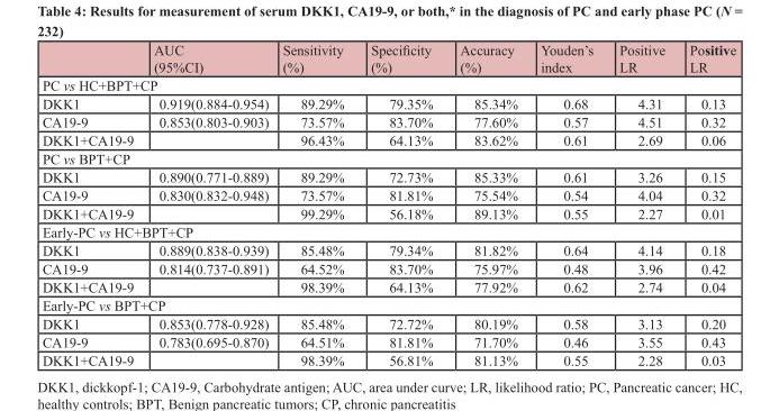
<table><thead><tr><td></td><td>AUC (95%CI)</td><td>Sensitivity (%)</td><td>Specificity (%)</td><td>Accuracy (%)</td><td>Youden’s index</td><td>Positive LR</td><td>Positive LR</td></tr></thead><tbody><tr><td colspan="8">PC vs HC+BPT+CP</td></tr><tr><td>DKK1</td><td>0.919(0.884-0.954)</td><td>89.29%</td><td>79.35%</td><td>85.34%</td><td>0.68</td><td>4.31</td><td>0.13</td></tr><tr><td>CA19-9</td><td>0.853(0.803-0.903)</td><td>73.57%</td><td>83.70%</td><td>77.60%</td><td>0.57</td><td>4.51</td><td>0.32</td></tr><tr><td>DKK1+CA19-9</td><td></td><td>96.43%</td><td>64.13%</td><td>83.62%</td><td>0.61</td><td>2.69</td><td>0.06</td></tr><tr><td colspan="8">PC vs BPT+CP</td></tr><tr><td>DKK1</td><td>0.890(0.771-0.889)</td><td>89.29%</td><td>72.73%</td><td>85.33%</td><td>0.61</td><td>3.26</td><td>0.15</td></tr><tr><td>CA19-9</td><td>0.830(0.832-0.948)</td><td>73.57%</td><td>81.81%</td><td>75.54%</td><td>0.54</td><td>4.04</td><td>0.32</td></tr><tr><td>DKK1+CA19-9</td><td></td><td>99.29%</td><td>56.18%</td><td>89.13%</td><td>0.55</td><td>2.27</td><td>0.01</td></tr><tr><td colspan="8">Early-PC vs HC+BPT+CP</td></tr><tr><td>DKK1</td><td>0.889(0.838-0.939)</td><td>85.48%</td><td>79.34%</td><td>81.82%</td><td>0.64</td><td>4.14</td><td>0.18</td></tr><tr><td>CA19-9</td><td>0.814(0.737-0.891)</td><td>64.52%</td><td>83.70%</td><td>75.97%</td><td>0.48</td><td>3.96</td><td>0.42</td></tr><tr><td>DKK1+CA19-9</td><td></td><td>98.39%</td><td>64.13%</td><td>77.92%</td><td>0.62</td><td>2.74</td><td>0.04</td></tr><tr><td colspan="8">Early-PC vs BPT+CP</td></tr><tr><td>DKK1</td><td>0.853(0.778-0.928)</td><td>85.48%</td><td>72.72%</td><td>80.19%</td><td>0.58</td><td>3.13</td><td>0.20</td></tr><tr><td>CA19-9</td><td>0.783(0.695-0.870)</td><td>64.51%</td><td>81.81%</td><td>71.70%</td><td>0.46</td><td>3.55</td><td>0.43</td></tr><tr><td>DKK1+CA19-9</td><td></td><td>98.39%</td><td>56.81%</td><td>81.13%</td><td>0.55</td><td>2.28</td><td>0.03</td></tr></tbody></table>